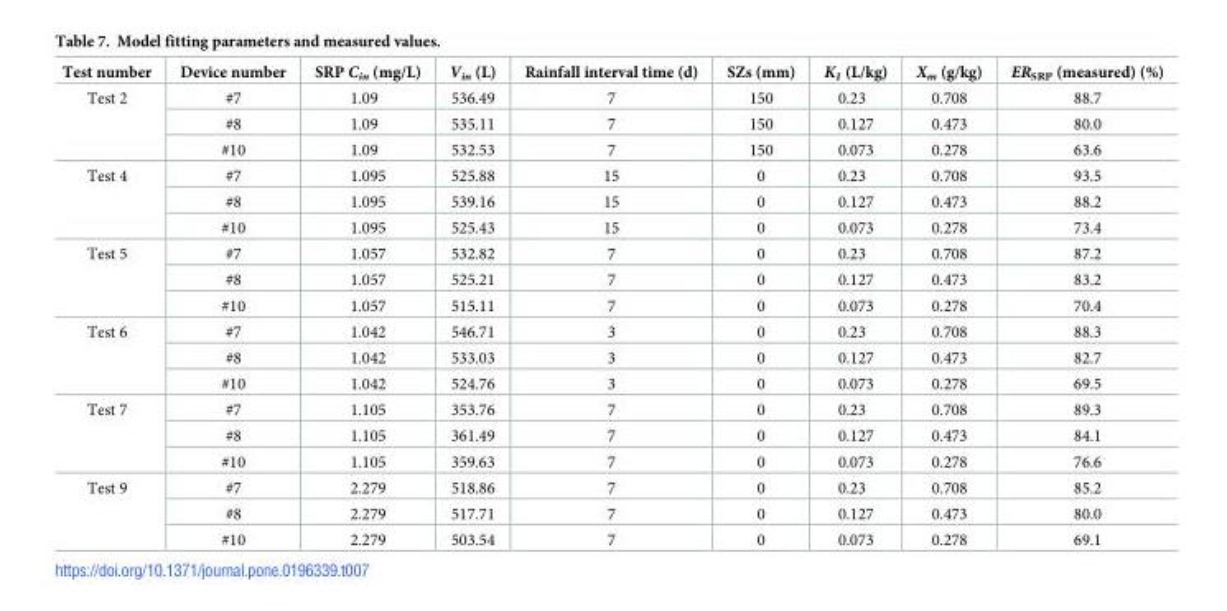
<table><thead><tr><td>Test number</td><td>Device number</td><td>SRP C<sub>in</sub> (mg/L)</td><td>V<sub>in</sub> (L)</td><td>Rainfall interval time (d)</td><td>SZs (mm)</td><td>K<sub>1</sub> (L/kg)</td><td>X<sub>m</sub> (g/kg)</td><td>ER<sub>SRP</sub> (measured) (%)</td></tr></thead><tbody><tr><td rowspan="3">Test 2</td><td>#7</td><td>1.09</td><td>536.49</td><td>7</td><td>150</td><td>0.23</td><td>0.708</td><td>88.7</td></tr><tr><td>#8</td><td>1.09</td><td>535.11</td><td>7</td><td>150</td><td>0.127</td><td>0.473</td><td>80.0</td></tr><tr><td>#10</td><td>1.09</td><td>532.53</td><td>7</td><td>150</td><td>0.073</td><td>0.278</td><td>63.6</td></tr><tr><td rowspan="3">Test 4</td><td>#7</td><td>1.095</td><td>525.88</td><td>15</td><td>0</td><td>0.23</td><td>0.708</td><td>93.5</td></tr><tr><td>#8</td><td>1.095</td><td>539.16</td><td>15</td><td>0</td><td>0.127</td><td>0.473</td><td>88.2</td></tr><tr><td>#10</td><td>1.095</td><td>525.43</td><td>15</td><td>0</td><td>0.073</td><td>0.278</td><td>73.4</td></tr><tr><td rowspan="3">Test 5</td><td>#7</td><td>1.057</td><td>532.82</td><td>7</td><td>0</td><td>0.23</td><td>0.708</td><td>87.2</td></tr><tr><td>#8</td><td>1.057</td><td>525.21</td><td>7</td><td>0</td><td>0.127</td><td>0.473</td><td>83.2</td></tr><tr><td>#10</td><td>1.057</td><td>515.11</td><td>7</td><td>0</td><td>0.073</td><td>0.278</td><td>70.4</td></tr><tr><td rowspan="3">Test 6</td><td>#7</td><td>1.042</td><td>546.71</td><td>3</td><td>0</td><td>0.23</td><td>0.708</td><td>88.3</td></tr><tr><td>#8</td><td>1.042</td><td>533.03</td><td>3</td><td>0</td><td>0.127</td><td>0.473</td><td>82.7</td></tr><tr><td>#10</td><td>1.042</td><td>524.76</td><td>3</td><td>0</td><td>0.073</td><td>0.278</td><td>69.5</td></tr><tr><td rowspan="3">Test 7</td><td>#7</td><td>1.105</td><td>353.76</td><td>7</td><td>0</td><td>0.23</td><td>0.708</td><td>89.3</td></tr><tr><td>#8</td><td>1.105</td><td>361.49</td><td>7</td><td>0</td><td>0.127</td><td>0.473</td><td>84.1</td></tr><tr><td>#10</td><td>1.105</td><td>359.63</td><td>7</td><td>0</td><td>0.073</td><td>0.278</td><td>76.6</td></tr><tr><td rowspan="3">Test 9</td><td>#7</td><td>2.279</td><td>518.86</td><td>7</td><td>0</td><td>0.23</td><td>0.708</td><td>85.2</td></tr><tr><td>#8</td><td>2.279</td><td>517.71</td><td>7</td><td>0</td><td>0.127</td><td>0.473</td><td>80.0</td></tr><tr><td>#10</td><td>2.279</td><td>503.54</td><td>7</td><td>0</td><td>0.073</td><td>0.278</td><td>69.1</td></tr></tbody></table>